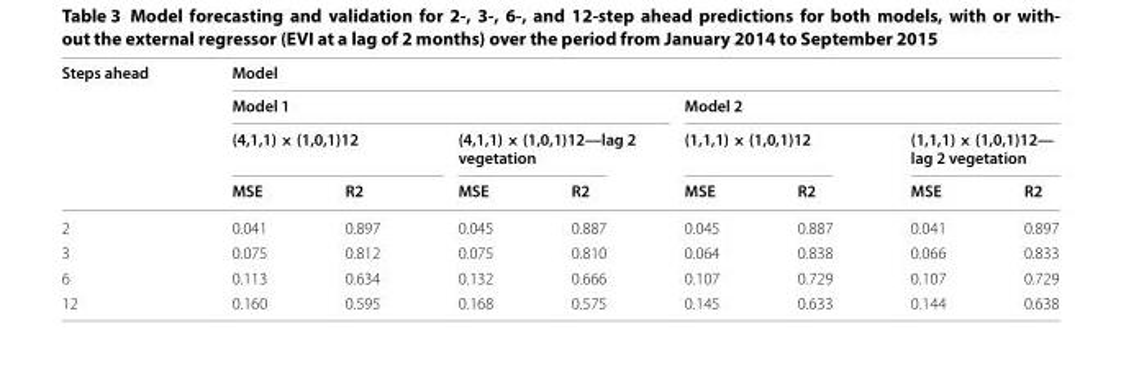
<table><thead><tr><td rowspan="4">Steps ahead</td><td colspan="8">Model</td></tr><tr><td colspan="4">Model 1</td><td colspan="4">Model 2</td></tr><tr><td colspan="2">(4,1,1) × (1,0,1)12</td><td colspan="2">(4,1,1) × (1,0,1)12—lag 2 vegetation</td><td colspan="2">(1,1,1) × (1,0,1)12</td><td colspan="2">(1,1,1) × (1,0,1)12— lag 2 vegetation</td></tr><tr><td>MSE</td><td>R2</td><td>MSE</td><td>R2</td><td>MSE</td><td>R2</td><td>MSE</td><td>R2</td></tr></thead><tbody><tr><td>2</td><td>0.041</td><td>0.897</td><td>0.045</td><td>0.887</td><td>0.045</td><td>0.887</td><td>0.041</td><td>0.897</td></tr><tr><td>3</td><td>0.075</td><td>0.812</td><td>0.075</td><td>0.810</td><td>0.064</td><td>0.838</td><td>0.066</td><td>0.833</td></tr><tr><td>6</td><td>0.113</td><td>0.634</td><td>0.132</td><td>0.666</td><td>0.107</td><td>0.729</td><td>0.107</td><td>0.729</td></tr><tr><td>12</td><td>0.160</td><td>0.595</td><td>0.168</td><td>0.575</td><td>0.145</td><td>0.633</td><td>0.144</td><td>0.638</td></tr></tbody></table>